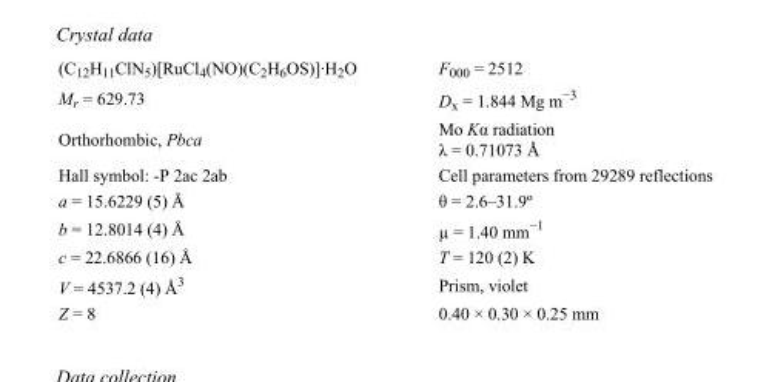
<table><tbody><tr><td>(C<sub>12</sub>H<sub>11</sub>ClN<sub>5</sub>)[RuCl<sub>4</sub>(NO)(C<sub>2</sub>H<sub>6</sub>OS)]·H<sub>2</sub>O</td><td>F<sub>000</sub> = 2512</td></tr><tr><td>M<sub>r</sub> = 629.73</td><td>D<sub>x</sub> = 1.844 Mg m<sup>−3</sup></td></tr><tr><td>Orthorhombic, Pbca</td><td>Mo Kα radiation λ = 0.71073 Å</td></tr><tr><td>Hall symbol: -P 2ac 2ab</td><td>Cell parameters from 29289 reflections</td></tr><tr><td>a = 15.6229 (5) Å</td><td>θ = 2.6–31.9º</td></tr><tr><td>b = 12.8014 (4) Å</td><td>µ = 1.40 mm<sup>−1</sup></td></tr><tr><td>c = 22.6866 (16) Å</td><td>T = 120 (2) K</td></tr><tr><td>V = 4537.2 (4) Å<sup>3</sup></td><td>Prism, violet</td></tr><tr><td>Z = 8</td><td>0.40 × 0.30 × 0.25 mm</td></tr></tbody></table>